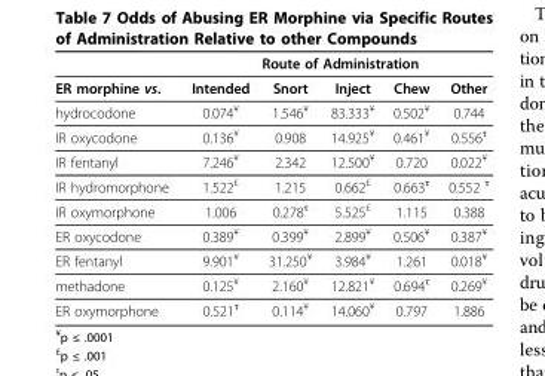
<table><thead><tr><td rowspan="2">ER morphine vs.</td><td colspan="5">Route of Administration</td></tr><tr><td>Intended</td><td>Snort</td><td>Inject</td><td>Chew</td><td>Other</td></tr></thead><tbody><tr><td>hydrocodone</td><td>0.074¥</td><td>1.546¥</td><td>83.333¥</td><td>0.502¥</td><td>0.744</td></tr><tr><td>IR oxycodone</td><td>0.136¥</td><td>0.908</td><td>14.925¥</td><td>0.461¥</td><td>0.556τ</td></tr><tr><td>IR fentanyl</td><td>7.246¥</td><td>2.342</td><td>12.500¥</td><td>0.720</td><td>0.022¥</td></tr><tr><td>IR hydromorphone</td><td>1.522£</td><td>1.215</td><td>0.662£</td><td>0.663τ</td><td>0.552 τ</td></tr><tr><td>IR oxymorphone</td><td>1.006</td><td>0.278τ</td><td>5.525£</td><td>1.115</td><td>0.388</td></tr><tr><td>ER oxycodone</td><td>0.389¥</td><td>0.399¥</td><td>2.899¥</td><td>0.506¥</td><td>0.387¥</td></tr><tr><td>ER fentanyl</td><td>9.901¥</td><td>31.250¥</td><td>3.984¥</td><td>1.261</td><td>0.018¥</td></tr><tr><td>methadone</td><td>0.125¥</td><td>2.160¥</td><td>12.821¥</td><td>0.694τ</td><td>0.269¥</td></tr><tr><td>ER oxymorphone</td><td>0.521τ</td><td>0.114¥</td><td>14.060¥</td><td>0.797</td><td>1.886</td></tr></tbody></table>